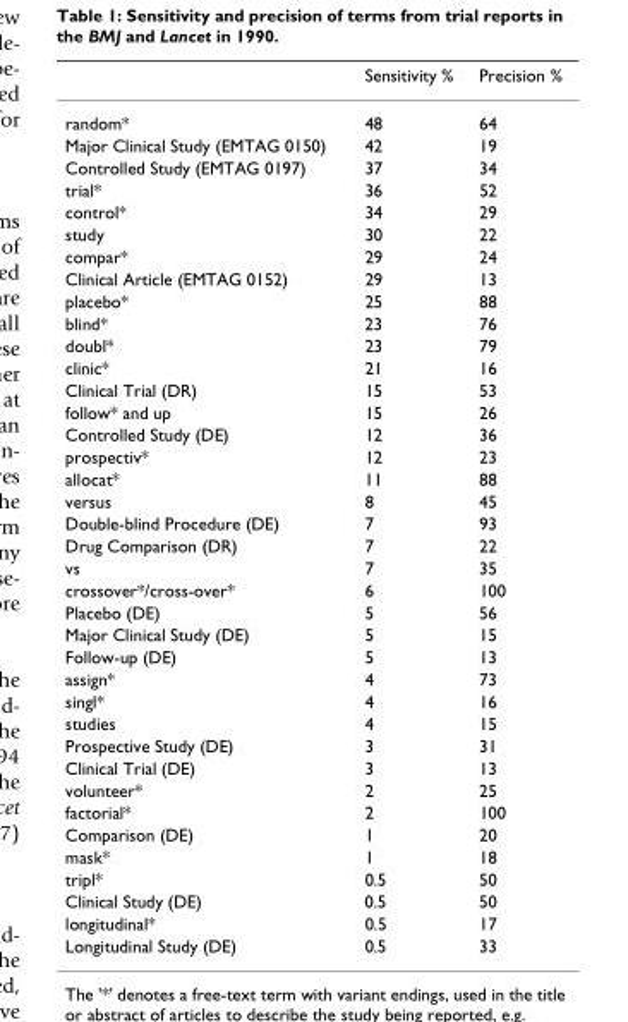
<table><thead><tr><td></td><td>Sensitivity %</td><td>Precision %</td></tr></thead><tbody><tr><td>random*</td><td>48</td><td>64</td></tr><tr><td>Major Clinical Study (EMTAG 0150)</td><td>42</td><td>19</td></tr><tr><td>Controlled Study (EMTAG 0197)</td><td>37</td><td>34</td></tr><tr><td>trial*</td><td>36</td><td>52</td></tr><tr><td>control*</td><td>34</td><td>29</td></tr><tr><td>study</td><td>30</td><td>22</td></tr><tr><td>compar*</td><td>29</td><td>24</td></tr><tr><td>Clinical Article (EMTAG 0152)</td><td>29</td><td>13</td></tr><tr><td>placebo*</td><td>25</td><td>88</td></tr><tr><td>blind*</td><td>23</td><td>76</td></tr><tr><td>doubl*</td><td>23</td><td>79</td></tr><tr><td>clinic*</td><td>21</td><td>16</td></tr><tr><td>Clinical Trial (DR)</td><td>15</td><td>53</td></tr><tr><td>follow* and up</td><td>15</td><td>26</td></tr><tr><td>Controlled Study (DE)</td><td>12</td><td>36</td></tr><tr><td>prospectiv*</td><td>12</td><td>23</td></tr><tr><td>allocat*</td><td>11</td><td>88</td></tr><tr><td>versus</td><td>8</td><td>45</td></tr><tr><td>Double-blind Procedure (DE)</td><td>7</td><td>93</td></tr><tr><td>Drug Comparison (DR)</td><td>7</td><td>22</td></tr><tr><td>vs</td><td>7</td><td>35</td></tr><tr><td>crossover*/cross-over*</td><td>6</td><td>100</td></tr><tr><td>Placebo (DE)</td><td>5</td><td>56</td></tr><tr><td>Major Clinical Study (DE)</td><td>5</td><td>15</td></tr><tr><td>Follow-up (DE)</td><td>5</td><td>13</td></tr><tr><td>assign*</td><td>4</td><td>73</td></tr><tr><td>singl*</td><td>4</td><td>16</td></tr><tr><td>studies</td><td>4</td><td>15</td></tr><tr><td>Prospective Study (DE)</td><td>3</td><td>31</td></tr><tr><td>Clinical Trial (DE)</td><td>3</td><td>13</td></tr><tr><td>volunteer*</td><td>2</td><td>25</td></tr><tr><td>factorial*</td><td>2</td><td>100</td></tr><tr><td>Comparison (DE)</td><td>1</td><td>20</td></tr><tr><td>mask*</td><td>1</td><td>18</td></tr><tr><td>tripl*</td><td>0.5</td><td>50</td></tr><tr><td>Clinical Study (DE)</td><td>0.5</td><td>50</td></tr><tr><td>longitudinal*</td><td>0.5</td><td>17</td></tr><tr><td>Longitudinal Study (DE)</td><td>0.5</td><td>33</td></tr></tbody></table>